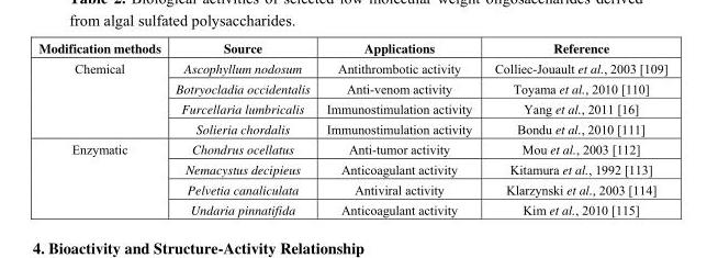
<table><thead><tr><td>Modification methods</td><td>Source</td><td>Applications</td><td>Reference</td></tr></thead><tbody><tr><td rowspan="4">Chemical</td><td>Ascophyllum nodosum</td><td>Antithrombotic activity</td><td>Colliec-Jouault et al., 2003 [109]</td></tr><tr><td>Botryocladia occidentalis</td><td>Anti-venom activity</td><td>Toyama et al., 2010 [110]</td></tr><tr><td>Furcellaria lumbricalis</td><td>Immunostimulation activity</td><td>Yang et al., 2011 [16]</td></tr><tr><td>Solieria chordalis</td><td>Immunostimulation activity</td><td>Bondu et al., 2010 [111]</td></tr><tr><td rowspan="4">Enzymatic</td><td>Chondrus ocellatus</td><td>Anti-tumor activity</td><td>Mou et al., 2003 [112]</td></tr><tr><td>Nemacystus decipieus</td><td>Anticoagulant activity</td><td>Kitamura et al., 1992 [113]</td></tr><tr><td>Pelvetia canaliculata</td><td>Antiviral activity</td><td>Klarzynski et al., 2003 [114]</td></tr><tr><td>Undaria pinnatifida</td><td>Anticoagulant activity</td><td>Kim et al., 2010 [115]</td></tr></tbody></table>